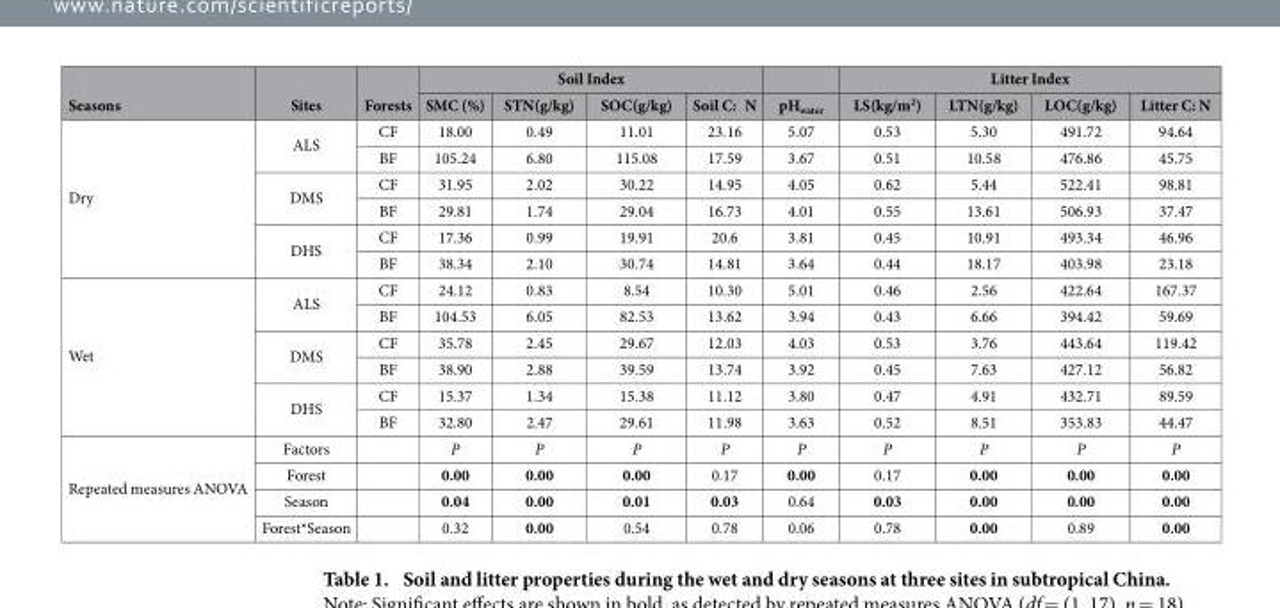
<table><thead><tr><td rowspan="2">Seasons</td><td rowspan="2">Sites</td><td rowspan="2">Forests</td><td colspan="4">Soil Index</td><td rowspan="2">pH<sub>water</sub></td><td colspan="4">Litter Index</td></tr><tr><td>SMC (%)</td><td>STN(g/kg)</td><td>SOC(g/kg)</td><td>Soil C: N</td><td>LS(kg/m<sup>2</sup>)</td><td>LTN(g/kg)</td><td>LOC(g/kg)</td><td>Litter C: N</td></tr></thead><tbody><tr><td rowspan="6">Dry</td><td rowspan="2">ALS</td><td>CF</td><td>18.00</td><td>0.49</td><td>11.01</td><td>23.16</td><td>5.07</td><td>0.53</td><td>5.30</td><td>491.72</td><td>94.64</td></tr><tr><td>BF</td><td>105.24</td><td>6.80</td><td>115.08</td><td>17.59</td><td>3.67</td><td>0.51</td><td>10.58</td><td>476.86</td><td>45.75</td></tr><tr><td rowspan="2">DMS</td><td>CF</td><td>31.95</td><td>2.02</td><td>30.22</td><td>14.95</td><td>4.05</td><td>0.62</td><td>5.44</td><td>522.41</td><td>98.81</td></tr><tr><td>BF</td><td>29.81</td><td>1.74</td><td>29.04</td><td>16.73</td><td>4.01</td><td>0.55</td><td>13.61</td><td>506.93</td><td>37.47</td></tr><tr><td rowspan="2">DHS</td><td>CF</td><td>17.36</td><td>0.99</td><td>19.91</td><td>20.6</td><td>3.81</td><td>0.45</td><td>10.91</td><td>493.34</td><td>46.96</td></tr><tr><td>BF</td><td>38.34</td><td>2.10</td><td>30.74</td><td>14.81</td><td>3.64</td><td>0.44</td><td>18.17</td><td>403.98</td><td>23.18</td></tr><tr><td rowspan="6">Wet</td><td rowspan="2">ALS</td><td>CF</td><td>24.12</td><td>0.83</td><td>8.54</td><td>10.30</td><td>5.01</td><td>0.46</td><td>2.56</td><td>422.64</td><td>167.37</td></tr><tr><td>BF</td><td>104.53</td><td>6.05</td><td>82.53</td><td>13.62</td><td>3.94</td><td>0.43</td><td>6.66</td><td>394.42</td><td>59.69</td></tr><tr><td rowspan="2">DMS</td><td>CF</td><td>35.78</td><td>2.45</td><td>29.67</td><td>12.03</td><td>4.03</td><td>0.53</td><td>3.76</td><td>443.64</td><td>119.42</td></tr><tr><td>BF</td><td>38.90</td><td>2.88</td><td>39.59</td><td>13.74</td><td>3.92</td><td>0.45</td><td>7.63</td><td>427.12</td><td>56.82</td></tr><tr><td rowspan="2">DHS</td><td>CF</td><td>15.37</td><td>1.34</td><td>15.38</td><td>11.12</td><td>3.80</td><td>0.47</td><td>4.91</td><td>432.71</td><td>89.59</td></tr><tr><td>BF</td><td>32.80</td><td>2.47</td><td>29.61</td><td>11.98</td><td>3.63</td><td>0.52</td><td>8.51</td><td>353.83</td><td>44.47</td></tr><tr><td rowspan="4">Repeated measures ANOVA</td><td>Factors</td><td></td><td>P</td><td>P</td><td>P</td><td>P</td><td>P</td><td>P</td><td>P</td><td>P</td><td>P</td></tr><tr><td>Forest</td><td></td><td>0.00</td><td>0.00</td><td>0.00</td><td>0.17</td><td>0.00</td><td>0.17</td><td>0.00</td><td>0.00</td><td>0.00</td></tr><tr><td>Season</td><td></td><td>0.04</td><td>0.00</td><td>0.01</td><td>0.03</td><td>0.64</td><td>0.03</td><td>0.00</td><td>0.00</td><td>0.00</td></tr><tr><td>Forest*Season</td><td></td><td>0.32</td><td>0.00</td><td>0.54</td><td>0.78</td><td>0.06</td><td>0.78</td><td>0.00</td><td>0.89</td><td>0.00</td></tr></tbody></table>